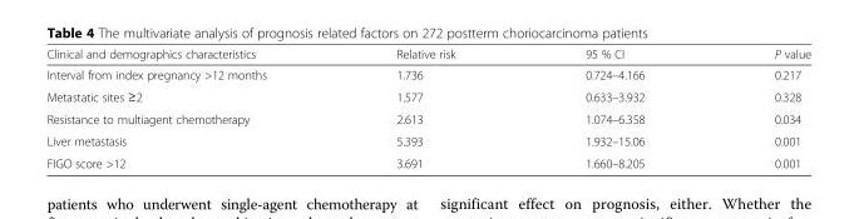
<table><thead><tr><td>Clinical and demographics characteristics</td><td>Relative risk</td><td>95 % CI</td><td>P value</td></tr></thead><tbody><tr><td>Interval from index pregnancy &gt;12 months</td><td>1.736</td><td>0.724–4.166</td><td>0.217</td></tr><tr><td>Metastatic sites ≥2</td><td>1.577</td><td>0.633–3.932</td><td>0.328</td></tr><tr><td>Resistance to multiagent chemotherapy</td><td>2.613</td><td>1.074–6.358</td><td>0.034</td></tr><tr><td>Liver metastasis</td><td>5.393</td><td>1.932–15.06</td><td>0.001</td></tr><tr><td>FIGO score &gt;12</td><td>3.691</td><td>1.660–8.205</td><td>0.001</td></tr></tbody></table>